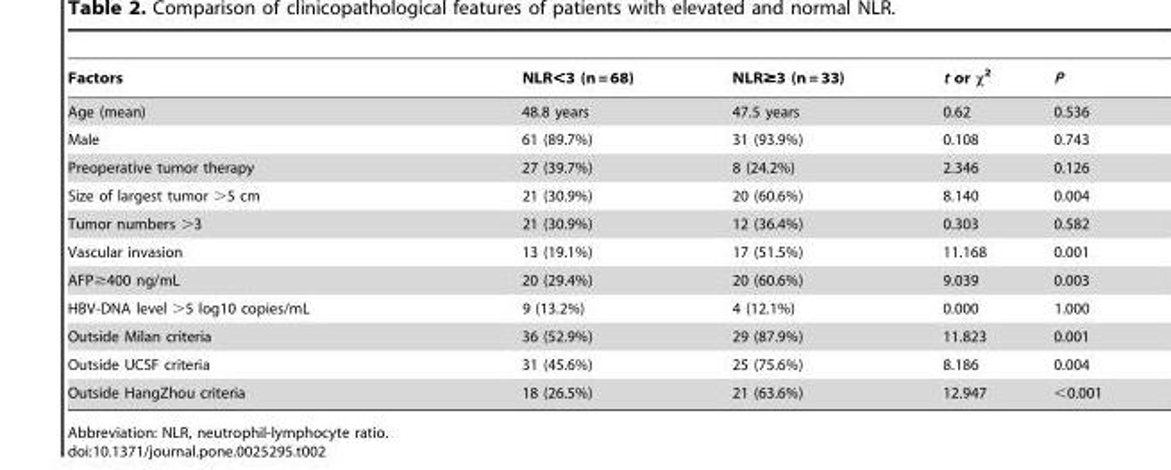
<table><thead><tr><td>Factors</td><td>NLR&lt;3 (n = 68)</td><td>NLR≥3 (n = 33)</td><td>t or χ2</td><td>P</td></tr></thead><tbody><tr><td>Age (mean)</td><td>48.8 years</td><td>47.5 years</td><td>0.62</td><td>0.536</td></tr><tr><td>Male</td><td>61 (89.7%)</td><td>31 (93.9%)</td><td>0.108</td><td>0.743</td></tr><tr><td>Preoperative tumor therapy</td><td>27 (39.7%)</td><td>8 (24.2%)</td><td>2.346</td><td>0.126</td></tr><tr><td>Size of largest tumor &gt;5 cm</td><td>21 (30.9%)</td><td>20 (60.6%)</td><td>8.140</td><td>0.004</td></tr><tr><td>Tumor numbers &gt;3</td><td>21 (30.9%)</td><td>12 (36.4%)</td><td>0.303</td><td>0.582</td></tr><tr><td>Vascular invasion</td><td>13 (19.1%)</td><td>17 (51.5%)</td><td>11.168</td><td>0.001</td></tr><tr><td>AFP≥400 ng/mL</td><td>20 (29.4%)</td><td>20 (60.6%)</td><td>9.039</td><td>0.003</td></tr><tr><td>HBV-DNA level &gt;5 log10 copies/mL</td><td>9 (13.2%)</td><td>4 (12.1%)</td><td>0.000</td><td>1.000</td></tr><tr><td>Outside Milan criteria</td><td>36 (52.9%)</td><td>29 (87.9%)</td><td>11.823</td><td>0.001</td></tr><tr><td>Outside UCSF criteria</td><td>31 (45.6%)</td><td>25 (75.6%)</td><td>8.186</td><td>0.004</td></tr><tr><td>Outside HangZhou criteria</td><td>18 (26.5%)</td><td>21 (63.6%)</td><td>12.947</td><td>&lt;0.001</td></tr></tbody></table>